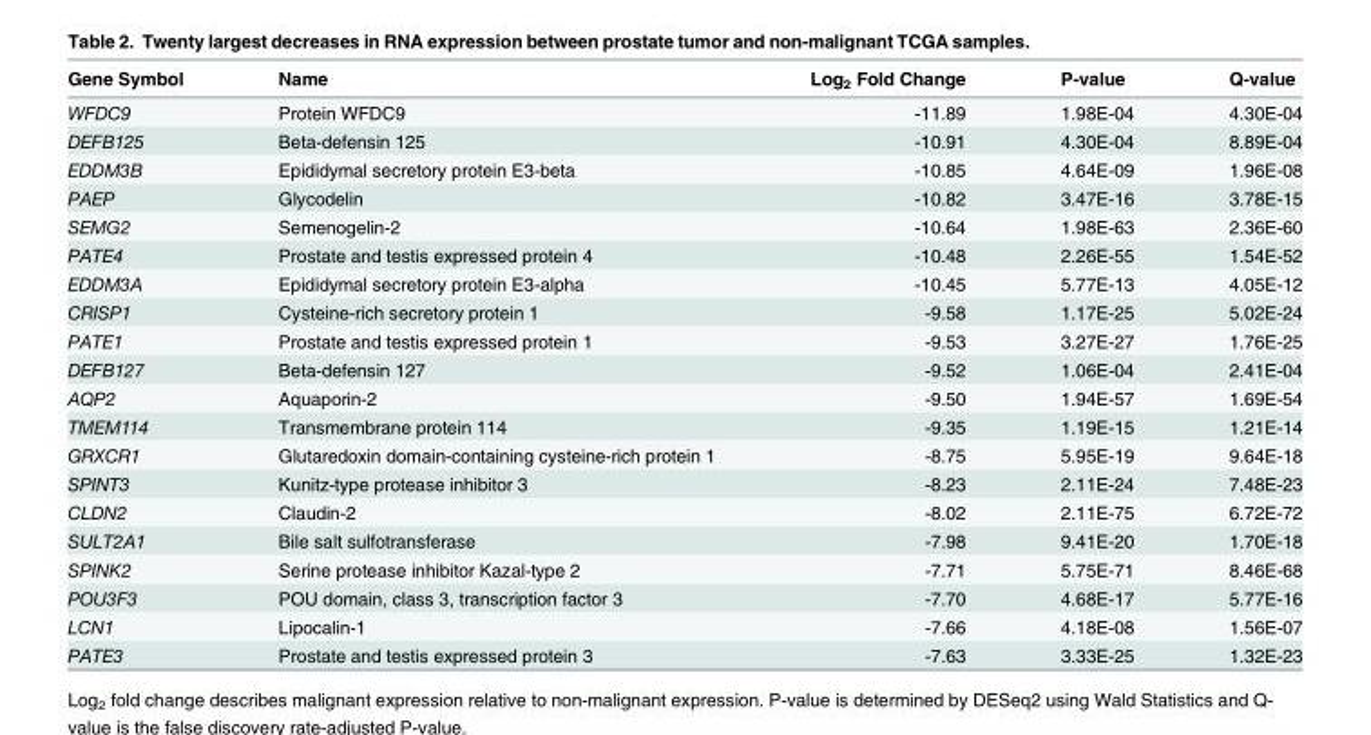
<table><thead><tr><td>Gene Symbol</td><td>Name</td><td>Log<sub>2</sub> Fold Change</td><td>P-value</td><td>Q-value</td></tr></thead><tbody><tr><td>WFDC9</td><td>Protein WFDC9</td><td>-11.89</td><td>1.98E-04</td><td>4.30E-04</td></tr><tr><td>DEFB125</td><td>Beta-defensin 125</td><td>-10.91</td><td>4.30E-04</td><td>8.89E-04</td></tr><tr><td>EDDM3B</td><td>Epididymal secretory protein E3-beta</td><td>-10.85</td><td>4.64E-09</td><td>1.96E-08</td></tr><tr><td>PAEP</td><td>Glycodelin</td><td>-10.82</td><td>3.47E-16</td><td>3.78E-15</td></tr><tr><td>SEMG2</td><td>Semenogelin-2</td><td>-10.64</td><td>1.98E-63</td><td>2.36E-60</td></tr><tr><td>PATE4</td><td>Prostate and testis expressed protein 4</td><td>-10.48</td><td>2.26E-55</td><td>1.54E-52</td></tr><tr><td>EDDM3A</td><td>Epididymal secretory protein E3-alpha</td><td>-10.45</td><td>5.77E-13</td><td>4.05E-12</td></tr><tr><td>CRISP1</td><td>Cysteine-rich secretory protein 1</td><td>-9.58</td><td>1.17E-25</td><td>5.02E-24</td></tr><tr><td>PATE1</td><td>Prostate and testis expressed protein 1</td><td>-9.53</td><td>3.27E-27</td><td>1.76E-25</td></tr><tr><td>DEFB127</td><td>Beta-defensin 127</td><td>-9.52</td><td>1.06E-04</td><td>2.41E-04</td></tr><tr><td>AQP2</td><td>Aquaporin-2</td><td>-9.50</td><td>1.94E-57</td><td>1.69E-54</td></tr><tr><td>TMEM114</td><td>Transmembrane protein 114</td><td>-9.35</td><td>1.19E-15</td><td>1.21E-14</td></tr><tr><td>GRXCR1</td><td>Glutaredoxin domain-containing cysteine-rich protein 1</td><td>-8.75</td><td>5.95E-19</td><td>9.64E-18</td></tr><tr><td>SPINT3</td><td>Kunitz-type protease inhibitor 3</td><td>-8.23</td><td>2.11E-24</td><td>7.48E-23</td></tr><tr><td>CLDN2</td><td>Claudin-2</td><td>-8.02</td><td>2.11E-75</td><td>6.72E-72</td></tr><tr><td>SULT2A1</td><td>Bile salt sulfotransferase</td><td>-7.98</td><td>9.41E-20</td><td>1.70E-18</td></tr><tr><td>SPINK2</td><td>Serine protease inhibitor Kazal-type 2</td><td>-7.71</td><td>5.75E-71</td><td>8.46E-68</td></tr><tr><td>POU3F3</td><td>POU domain, class 3, transcription factor 3</td><td>-7.70</td><td>4.68E-17</td><td>5.77E-16</td></tr><tr><td>LCN1</td><td>Lipocalin-1</td><td>-7.66</td><td>4.18E-08</td><td>1.56E-07</td></tr><tr><td>PATE3</td><td>Prostate and testis expressed protein 3</td><td>-7.63</td><td>3.33E-25</td><td>1.32E-23</td></tr></tbody></table>